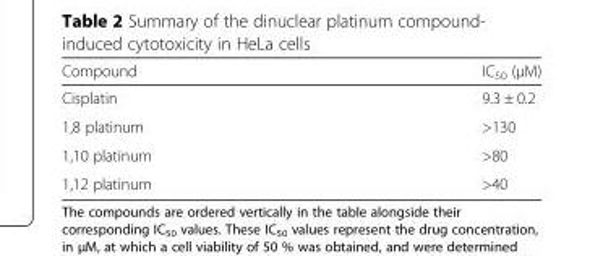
<table><thead><tr><td>Compound</td><td>IC<sub>50</sub> (μM)</td></tr></thead><tbody><tr><td>Cisplatin</td><td>9.3 ± 0.2</td></tr><tr><td>1,8 platinum</td><td>&gt;130</td></tr><tr><td>1,10 platinum</td><td>&gt;80</td></tr><tr><td>1,12 platinum</td><td>&gt;40</td></tr></tbody></table>